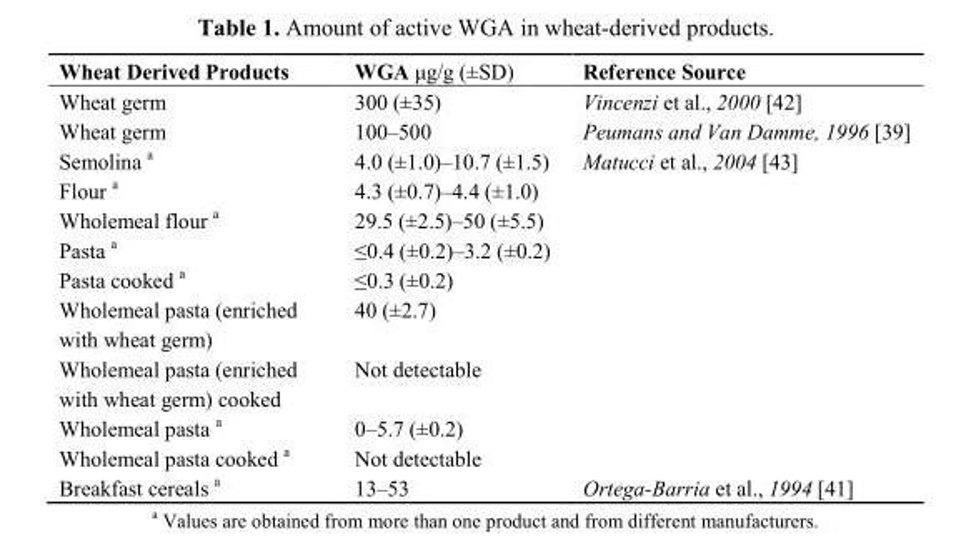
<table><thead><tr><td>Wheat Derived Products</td><td>WGA μg/g (±SD)</td><td>Reference Source</td></tr></thead><tbody><tr><td>Wheat germ</td><td>300 (±35)</td><td>Vincenzi et al., 2000 [42]</td></tr><tr><td>Wheat germ</td><td>100–500</td><td>Peumans and Van Damme, 1996 [39]</td></tr><tr><td>Semolina <sup>a</sup></td><td>4.0 (±1.0)–10.7 (±1.5)</td><td>Matucci et al., 2004 [43]</td></tr><tr><td>Flour <sup>a</sup></td><td>4.3 (±0.7)–4.4 (±1.0)</td><td></td></tr><tr><td>Wholemeal flour <sup>a</sup></td><td>29.5 (±2.5)–50 (±5.5)</td><td></td></tr><tr><td>Pasta <sup>a</sup></td><td>≤0.4 (±0.2)–3.2 (±0.2)</td><td></td></tr><tr><td>Pasta cooked <sup>a</sup></td><td>≤0.3 (±0.2)</td><td></td></tr><tr><td>Wholemeal pasta (enriched with wheat germ)</td><td>40 (±2.7)</td><td></td></tr><tr><td>Wholemeal pasta (enriched with wheat germ) cooked</td><td>Not detectable</td><td></td></tr><tr><td>Wholemeal pasta <sup>a</sup></td><td>0–5.7 (±0.2)</td><td></td></tr><tr><td>Wholemeal pasta cooked <sup>a</sup></td><td>Not detectable</td><td></td></tr><tr><td>Breakfast cereals <sup>a</sup></td><td>13–53</td><td>Ortega-Barria et al., 1994 [41]</td></tr></tbody></table>